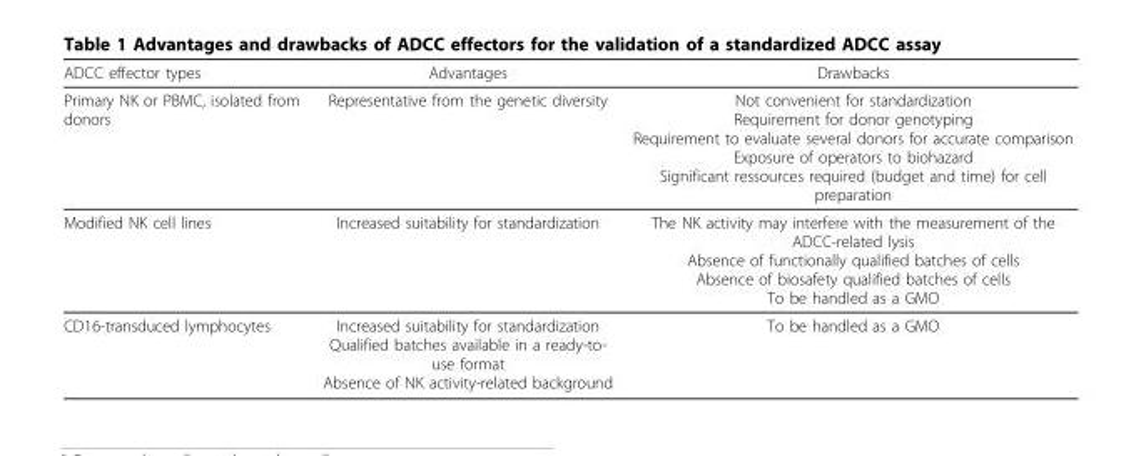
<table><thead><tr><td>ADCC effector types</td><td>Advantages</td><td>Drawbacks</td></tr></thead><tbody><tr><td>Primary NK or PBMC, isolated from donors</td><td>Representative from the genetic diversity</td><td>Not convenient for standardization Requirement for donor genotyping Requirement to evaluate several donors for accurate comparison Exposure of operators to biohazard Significant ressources required (budget and time) for cell preparation</td></tr><tr><td>Modified NK cell lines</td><td>Increased suitability for standardization</td><td>The NK activity may interfere with the measurement of the ADCC-related lysis Absence of functionally qualified batches of cells Absence of biosafety qualified batches of cells To be handled as a GMO</td></tr><tr><td>CD16-transduced lymphocytes</td><td>Increased suitability for standardization Qualified batches available in a ready-to- use format Absence of NK activity-related background</td><td>To be handled as a GMO</td></tr></tbody></table>